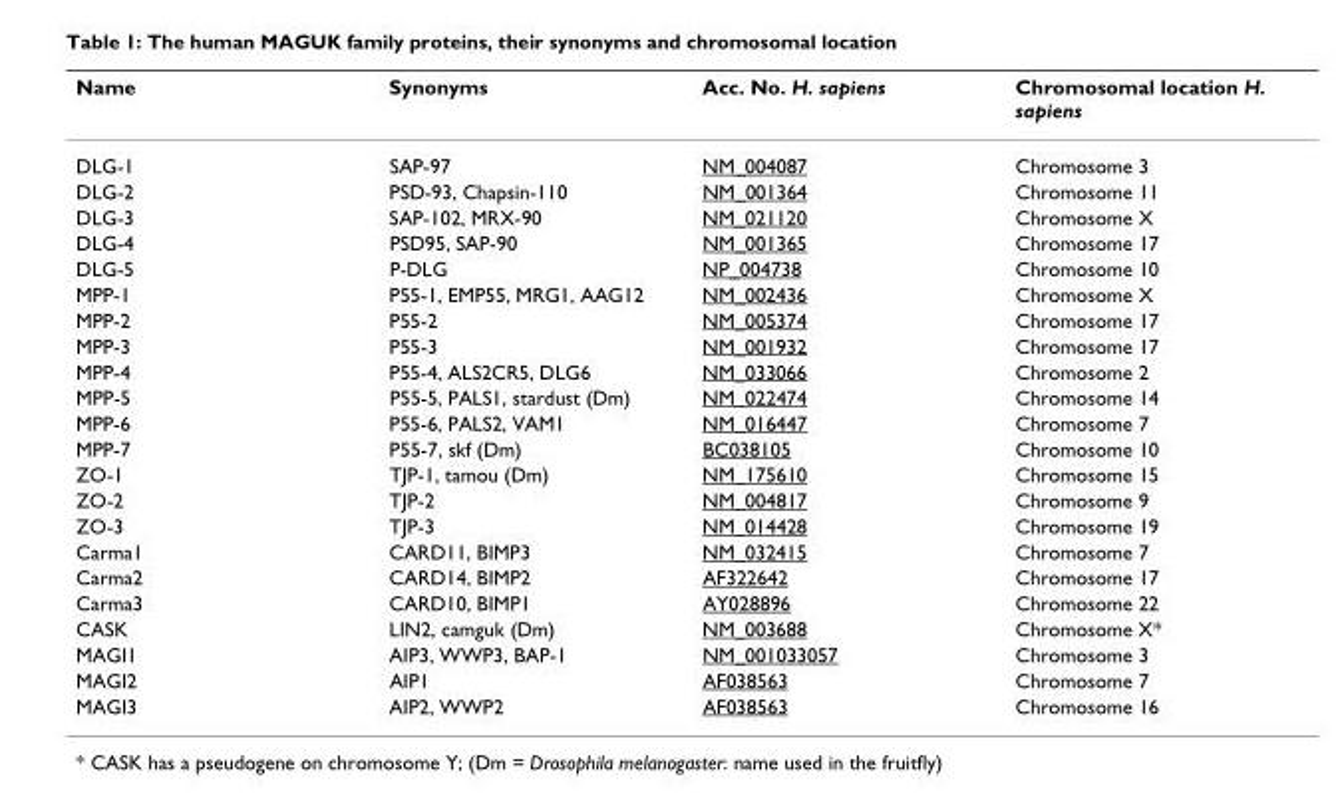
<table><thead><tr><td>Name</td><td>Synonyms</td><td>Acc. No. H. sapiens</td><td>Chromosomal location H. sapiens</td></tr></thead><tbody><tr><td>DLG-1</td><td>SAP-97</td><td>NM_004087</td><td>Chromosome 3</td></tr><tr><td>DLG-2</td><td>PSD-93, Chapsin-110</td><td>NM_001364</td><td>Chromosome 11</td></tr><tr><td>DLG-3</td><td>SAP-102, MRX-90</td><td>NM_021120</td><td>Chromosome X</td></tr><tr><td>DLG-4</td><td>PSD95, SAP-90</td><td>NM_001365</td><td>Chromosome 17</td></tr><tr><td>DLG-5</td><td>P-DLG</td><td>NP_004738</td><td>Chromosome 10</td></tr><tr><td>MPP-1</td><td>P55-1, EMP55, MRG1, AAG12</td><td>NM_002436</td><td>Chromosome X</td></tr><tr><td>MPP-2</td><td>P55-2</td><td>NM_005374</td><td>Chromosome 17</td></tr><tr><td>MPP-3</td><td>P55-3</td><td>NM_001932</td><td>Chromosome 17</td></tr><tr><td>MPP-4</td><td>P55-4, ALS2CR5, DLG6</td><td>NM_033066</td><td>Chromosome 2</td></tr><tr><td>MPP-5</td><td>P55-5, PALS1, stardust (Dm)</td><td>NM_022474</td><td>Chromosome 14</td></tr><tr><td>MPP-6</td><td>P55-6, PALS2, VAM1</td><td>NM_016447</td><td>Chromosome 7</td></tr><tr><td>MPP-7</td><td>P55-7, skf (Dm)</td><td>BC038105</td><td>Chromosome 10</td></tr><tr><td>ZO-1</td><td>TJP-1, tamou (Dm)</td><td>NM_175610</td><td>Chromosome 15</td></tr><tr><td>ZO-2</td><td>TJP-2</td><td>NM_004817</td><td>Chromosome 9</td></tr><tr><td>ZO-3</td><td>TJP-3</td><td>NM_014428</td><td>Chromosome 19</td></tr><tr><td>Carma1</td><td>CARD11, BIMP3</td><td>NM_032415</td><td>Chromosome 7</td></tr><tr><td>Carma2</td><td>CARD14, BIMP2</td><td>AF322642</td><td>Chromosome 17</td></tr><tr><td>Carma3</td><td>CARD10, BIMP1</td><td>AY028896</td><td>Chromosome 22</td></tr><tr><td>CASK</td><td>LIN2, camguk (Dm)</td><td>NM_003688</td><td>Chromosome X*</td></tr><tr><td>MAGI1</td><td>AIP3, WWP3, BAP-1</td><td>NM_001033057</td><td>Chromosome 3</td></tr><tr><td>MAGI2</td><td>AIP1</td><td>AF038563</td><td>Chromosome 7</td></tr><tr><td>MAGI3</td><td>AIP2, WWP2</td><td>AF038563</td><td>Chromosome 16</td></tr></tbody></table>